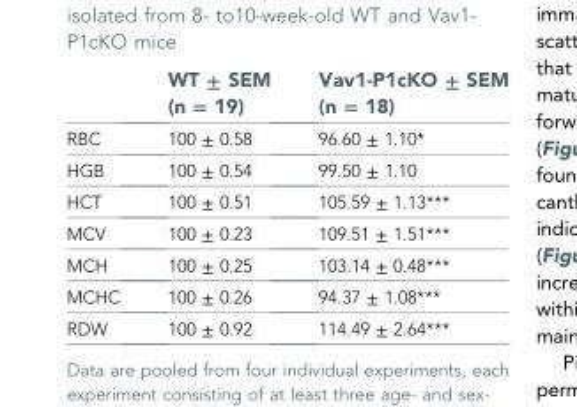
<table><thead><tr><td></td><td>WT ± SEM (n = 19)</td><td>Vav1-P1cKO ± SEM (n = 18)</td></tr></thead><tbody><tr><td>RBC</td><td>100 ± 0.58</td><td>96.60 ± 1.10*</td></tr><tr><td>HGB</td><td>100 ± 0.54</td><td>99.50 ± 1.10</td></tr><tr><td>HCT</td><td>100 ± 0.51</td><td>105.59 ± 1.13***</td></tr><tr><td>MCV</td><td>100 ± 0.23</td><td>109.51 ± 1.51***</td></tr><tr><td>MCH</td><td>100 ± 0.25</td><td>103.14 ± 0.48***</td></tr><tr><td>MCHC</td><td>100 ± 0.26</td><td>94.37 ± 1.08***</td></tr><tr><td>RDW</td><td>100 ± 0.92</td><td>114.49 ± 2.64***</td></tr></tbody></table>